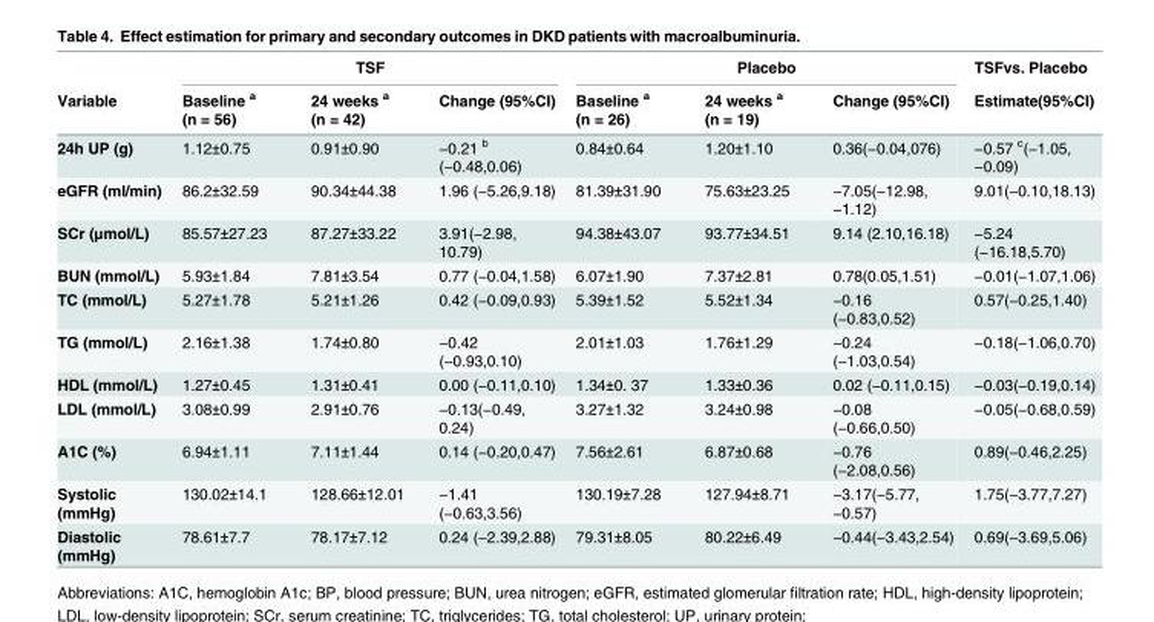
<table><thead><tr><td rowspan="2">Variable</td><td colspan="3">TSF</td><td colspan="3">Placebo</td><td rowspan="2">TSFvs. Placebo Estimate(95%CI)</td></tr><tr><td>Baseline <sup>a</sup> (n = 56)</td><td>24 weeks <sup>a</sup> (n = 42)</td><td>Change (95%CI)</td><td>Baseline <sup>a</sup> (n = 26)</td><td>24 weeks <sup>a</sup> (n = 19)</td><td>Change (95%CI)</td></tr></thead><tbody><tr><td>24h UP (g)</td><td>1.12±0.75</td><td>0.91±0.90</td><td>−0.21 <sup>b</sup> (−0.48,0.06)</td><td>0.84±0.64</td><td>1.20±1.10</td><td>0.36(−0.04,076)</td><td>−0.57 <sup>c</sup>(−1.05, −0.09)</td></tr><tr><td>eGFR (ml/min)</td><td>86.2±32.59</td><td>90.34±44.38</td><td>1.96 (−5.26,9.18)</td><td>81.39±31.90</td><td>75.63±23.25</td><td>−7.05(−12.98, −1.12)</td><td>9.01(−0.10,18.13)</td></tr><tr><td>SCr (μmol/L)</td><td>85.57±27.23</td><td>87.27±33.22</td><td>3.91(−2.98, 10.79)</td><td>94.38±43.07</td><td>93.77±34.51</td><td>9.14 (2.10,16.18)</td><td>−5.24 (−16.18,5.70)</td></tr><tr><td>BUN (mmol/L)</td><td>5.93±1.84</td><td>7.81±3.54</td><td>0.77 (−0.04,1.58)</td><td>6.07±1.90</td><td>7.37±2.81</td><td>0.78(0.05,1.51)</td><td>−0.01(−1.07,1.06)</td></tr><tr><td>TC (mmol/L)</td><td>5.27±1.78</td><td>5.21±1.26</td><td>0.42 (−0.09,0.93)</td><td>5.39±1.52</td><td>5.52±1.34</td><td>−0.16 (−0.83,0.52)</td><td>0.57(−0.25,1.40)</td></tr><tr><td>TG (mmol/L)</td><td>2.16±1.38</td><td>1.74±0.80</td><td>−0.42 (−0.93,0.10)</td><td>2.01±1.03</td><td>1.76±1.29</td><td>−0.24 (−1.03,0.54)</td><td>−0.18(−1.06,0.70)</td></tr><tr><td>HDL (mmol/L)</td><td>1.27±0.45</td><td>1.31±0.41</td><td>0.00 (−0.11,0.10)</td><td>1.34±0. 37</td><td>1.33±0.36</td><td>0.02 (−0.11,0.15)</td><td>−0.03(−0.19,0.14)</td></tr><tr><td>LDL (mmol/L)</td><td>3.08±0.99</td><td>2.91±0.76</td><td>−0.13(−0.49, 0.24)</td><td>3.27±1.32</td><td>3.24±0.98</td><td>−0.08 (−0.66,0.50)</td><td>−0.05(−0.68,0.59)</td></tr><tr><td>A1C (%)</td><td>6.94±1.11</td><td>7.11±1.44</td><td>0.14 (−0.20,0.47)</td><td>7.56±2.61</td><td>6.87±0.68</td><td>−0.76 (−2.08,0.56)</td><td>0.89(−0.46,2.25)</td></tr><tr><td>Systolic (mmHg)</td><td>130.02±14.1</td><td>128.66±12.01</td><td>−1.41 (−0.63,3.56)</td><td>130.19±7.28</td><td>127.94±8.71</td><td>−3.17(−5.77, −0.57)</td><td>1.75(−3.77,7.27)</td></tr><tr><td>Diastolic (mmHg)</td><td>78.61±7.7</td><td>78.17±7.12</td><td>0.24 (−2.39,2.88)</td><td>79.31±8.05</td><td>80.22±6.49</td><td>−0.44(−3.43,2.54)</td><td>0.69(−3.69,5.06)</td></tr></tbody></table>